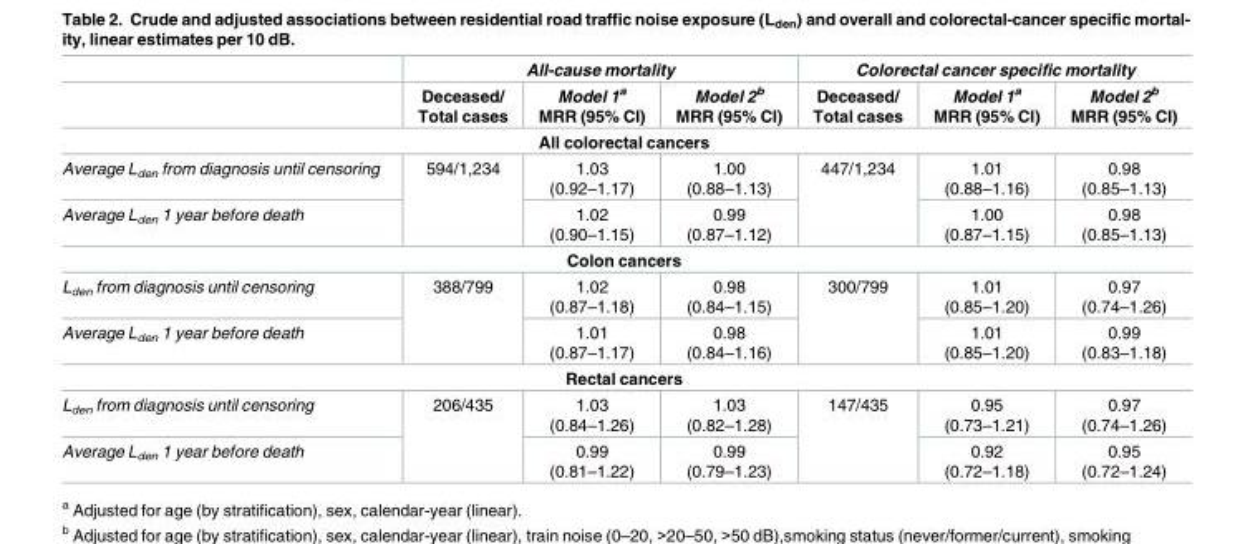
<table><thead><tr><td rowspan="2"></td><td colspan="3">All-cause mortality</td><td colspan="3">Colorectal cancer specific mortality</td></tr><tr><td>Deceased/ Total cases</td><td>Model 1<sup>a</sup> MRR (95% CI)</td><td>Model 2<sup>b</sup> MRR (95% CI)</td><td>Deceased/ Total cases</td><td>Model 1<sup>a</sup> MRR (95% CI)</td><td>Model 2<sup>b</sup> MRR (95% CI)</td></tr></thead><tbody><tr><td colspan="7">All colorectal cancers</td></tr><tr><td>Average L<sub>den</sub> from diagnosis until censoring</td><td rowspan="2">594/1,234</td><td>1.03 (0.92–1.17)</td><td>1.00 (0.88–1.13)</td><td rowspan="2">447/1,234</td><td>1.01 (0.88–1.16)</td><td>0.98 (0.85–1.13)</td></tr><tr><td>Average L<sub>den</sub> 1 year before death</td><td>1.02 (0.90–1.15)</td><td>0.99 (0.87–1.12)</td><td>1.00 (0.87–1.15)</td><td>0.98 (0.85–1.13)</td></tr><tr><td colspan="7">Colon cancers</td></tr><tr><td>L<sub>den</sub> from diagnosis until censoring</td><td rowspan="2">388/799</td><td>1.02 (0.87–1.18)</td><td>0.98 (0.84–1.15)</td><td rowspan="2">300/799</td><td>1.01 (0.85–1.20)</td><td>0.97 (0.74–1.26)</td></tr><tr><td>Average L<sub>den</sub> 1 year before death</td><td>1.01 (0.87–1.17)</td><td>0.98 (0.84–1.16)</td><td>1.01 (0.85–1.20)</td><td>0.99 (0.83–1.18)</td></tr><tr><td colspan="7">Rectal cancers</td></tr><tr><td>L<sub>den</sub> from diagnosis until censoring</td><td rowspan="2">206/435</td><td>1.03 (0.84–1.26)</td><td>1.03 (0.82–1.28)</td><td rowspan="2">147/435</td><td>0.95 (0.73–1.21)</td><td>0.97 (0.74–1.26)</td></tr><tr><td>Average L<sub>den</sub> 1 year before death</td><td>0.99 (0.81–1.22)</td><td>0.99 (0.79–1.23)</td><td>0.92 (0.72–1.18)</td><td>0.95 (0.72–1.24)</td></tr></tbody></table>